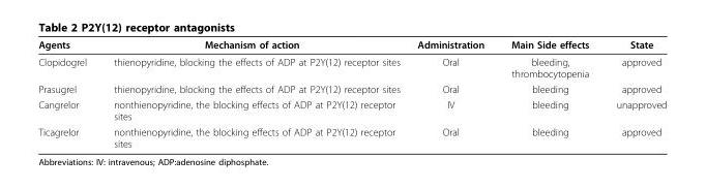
<table><thead><tr><td>Agents</td><td>Mechanism of action</td><td>Administration</td><td>Main Side effects</td><td>State</td></tr></thead><tbody><tr><td>Clopidogrel</td><td>thienopyridine, blocking the effects of ADP at P2Y(12) receptor sites</td><td>Oral</td><td>bleeding, thrombocytopenia</td><td>approved</td></tr><tr><td>Prasugrel</td><td>thienopyridine, blocking the effects of ADP at P2Y(12) receptor sites</td><td>Oral</td><td>bleeding</td><td>approved</td></tr><tr><td>Cangrelor</td><td>nonthienopyridine, the blocking effects of ADP at P2Y(12) receptor sites</td><td>IV</td><td>bleeding</td><td>unapproved</td></tr><tr><td>Ticagrelor</td><td>nonthienopyridine, the blocking effects of ADP at P2Y(12) receptor sites</td><td>Oral</td><td>bleeding</td><td>approved</td></tr></tbody></table>